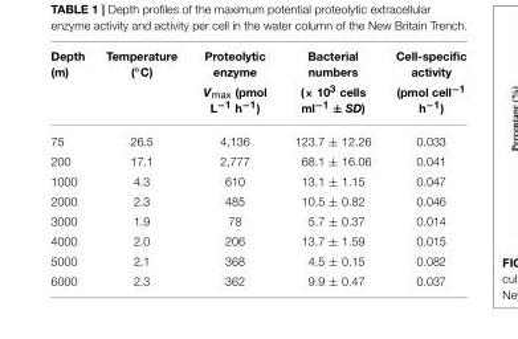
<table><thead><tr><td rowspan="2">Depth (m)</td><td rowspan="2">Temperature (◦C)</td><td rowspan="2">Proteolytic enzyme V<sub>max</sub> (pmol L<sup>−1</sup> h<sup>−1</sup>)</td><td rowspan="2">Bacterial numbers (× 10<sup>3</sup> cells ml<sup>−1</sup> ± SD)</td><td rowspan="2">Cell-specific activity (pmol cell<sup>−1</sup> h<sup>−1</sup>)</td></tr><tr></tr></thead><tbody><tr><td>75</td><td>26.5</td><td>4,136</td><td>123.7 ± 12.26</td><td>0.033</td></tr><tr><td>200</td><td>17.1</td><td>2,777</td><td>68.1 ± 16.06</td><td>0.041</td></tr><tr><td>1000</td><td>4.3</td><td>610</td><td>13.1 ± 1.15</td><td>0.047</td></tr><tr><td>2000</td><td>2.3</td><td>485</td><td>10.5 ± 0.82</td><td>0.046</td></tr><tr><td>3000</td><td>1.9</td><td>78</td><td>5.7 ± 0.37</td><td>0.014</td></tr><tr><td>4000</td><td>2.0</td><td>206</td><td>13.7 ± 1.59</td><td>0.015</td></tr><tr><td>5000</td><td>2.1</td><td>368</td><td>4.5 ± 0.15</td><td>0.082</td></tr><tr><td>6000</td><td>2.3</td><td>362</td><td>9.9 ± 0.47</td><td>0.037</td></tr></tbody></table>